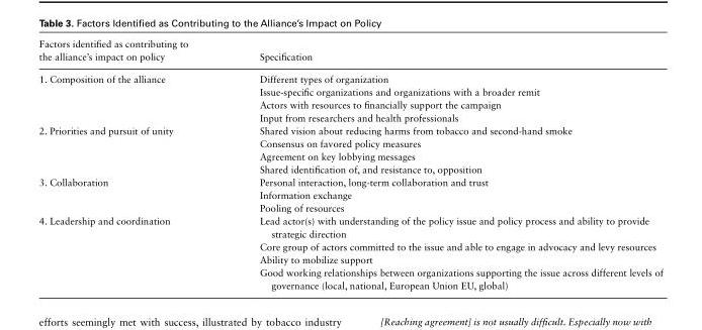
<table><thead><tr><td>Factors identified as contributing to the alliance’s impact on policy</td><td>Specification</td></tr></thead><tbody><tr><td rowspan="4">1. Composition of the alliance</td><td>Different types of organization</td></tr><tr><td>Issue-specific organizations and organizations with a broader remit</td></tr><tr><td>Actors with resources to financially support the campaign</td></tr><tr><td>Input from researchers and health professionals</td></tr><tr><td rowspan="4">2. Priorities and pursuit of unity</td><td>Shared vision about reducing harms from tobacco and second-hand smoke</td></tr><tr><td>Consensus on favored policy measures</td></tr><tr><td>Agreement on key lobbying messages</td></tr><tr><td>Shared identification of, and resistance to, opposition</td></tr><tr><td rowspan="3">3. Collaboration</td><td>Personal interaction, long-term collaboration and trust</td></tr><tr><td>Information exchange</td></tr><tr><td>Pooling of resources</td></tr><tr><td rowspan="4">4. Leadership and coordination</td><td>Lead actor(s) with understanding of the policy issue and policy process and ability to provide strategic direction</td></tr><tr><td>Core group of actors committed to the issue and able to engage in advocacy and levy resources</td></tr><tr><td>Ability to mobilize support</td></tr><tr><td>Good working relationships between organizations supporting the issue across different levels of governance (local, national, European Union EU, global)</td></tr></tbody></table>